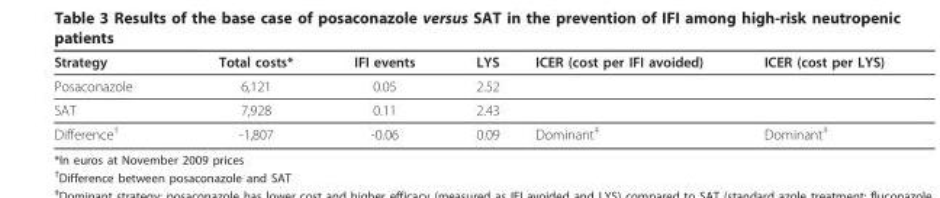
<table><thead><tr><td>Strategy</td><td>Total costs*</td><td>IFI events</td><td>LYS</td><td>ICER (cost per IFI avoided)</td><td>ICER (cost per LYS)</td></tr></thead><tbody><tr><td>Posaconazole</td><td>6,121</td><td>0.05</td><td>2.52</td><td></td><td></td></tr><tr><td>SAT</td><td>7,928</td><td>0.11</td><td>2.43</td><td></td><td></td></tr><tr><td>Difference<sup>†</sup></td><td>-1,807</td><td>-0.06</td><td>0.09</td><td>Dominant<sup>‡</sup></td><td>Dominant<sup>‡</sup></td></tr></tbody></table>